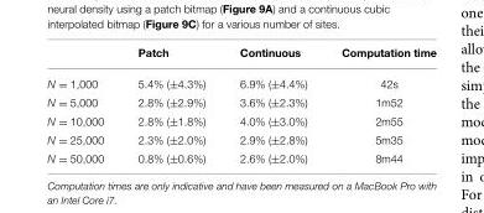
<table><thead><tr><td></td><td>Patch</td><td>Continuous</td><td>Computation time</td></tr></thead><tbody><tr><td>N = 1,000</td><td>5.4% (±4.3%)</td><td>6.9% (±4.4%)</td><td>42s</td></tr><tr><td>N = 5,000</td><td>2.8% (±2.9%)</td><td>3.6% (±2.3%)</td><td>1m52</td></tr><tr><td>N = 10,000</td><td>2.8% (±1.8%)</td><td>4.0% (±3.0%)</td><td>2m55</td></tr><tr><td>N = 25,000</td><td>2.3% (±2.0%)</td><td>2.9% (±2.8%)</td><td>5m35</td></tr><tr><td>N = 50,000</td><td>0.8% (±0.6%)</td><td>2.6% (±2.0%)</td><td>8m44</td></tr></tbody></table>